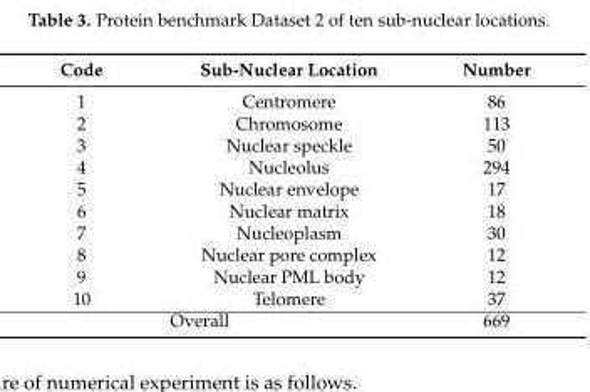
<table><thead><tr><td>Code</td><td>Sub-Nuclear Location</td><td>Number</td></tr></thead><tbody><tr><td>1</td><td>Centromere</td><td>86</td></tr><tr><td>2</td><td>Chromosome</td><td>113</td></tr><tr><td>3</td><td>Nuclear speckle</td><td>50</td></tr><tr><td>4</td><td>Nucleolus</td><td>294</td></tr><tr><td>5</td><td>Nuclear envelope</td><td>17</td></tr><tr><td>6</td><td>Nuclear matrix</td><td>18</td></tr><tr><td>7</td><td>Nucleoplasm</td><td>30</td></tr><tr><td>8</td><td>Nuclear pore complex</td><td>12</td></tr><tr><td>9</td><td>Nuclear PML body</td><td>12</td></tr><tr><td>10</td><td>Telomere</td><td>37</td></tr><tr><td colspan="2">Overall</td><td>669</td></tr></tbody></table>